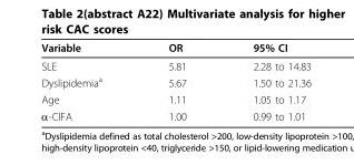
<table><thead><tr><td>Variable</td><td>OR</td><td>95% CI</td></tr></thead><tbody><tr><td>SLE</td><td>5.81</td><td>2.28 to 14.83</td></tr><tr><td>Dyslipidemia<sup>a</sup></td><td>5.67</td><td>1.50 to 21.36</td></tr><tr><td>Age</td><td>1.11</td><td>1.05 to 1.17</td></tr><tr><td>α-ClFA</td><td>1.00</td><td>0.99 to 1.01</td></tr></tbody></table>